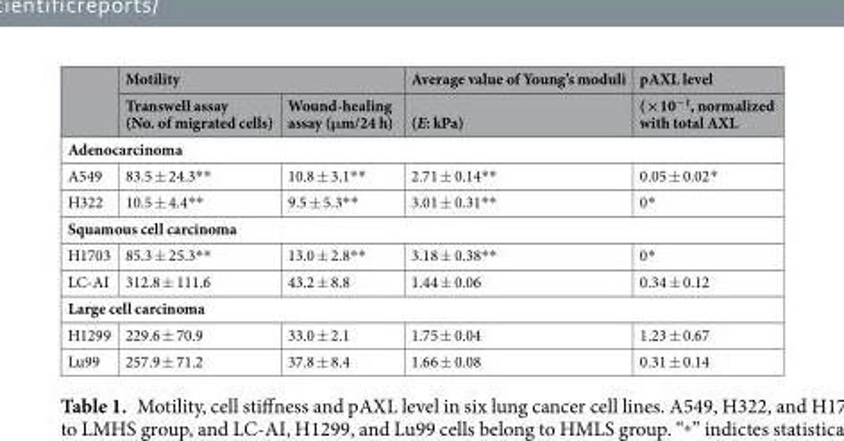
<table><thead><tr><td rowspan="2"></td><td colspan="2">Motility</td><td rowspan="2">Average value of Young’s moduli (E: kPa)</td><td rowspan="2">pAXL level (×10<sup>−1</sup>, normalized with total AXL</td></tr><tr><td>Transwell assay (No. of migrated cells)</td><td>Wound-healing assay (μm/24 h)</td></tr></thead><tbody><tr><td colspan="5">Adenocarcinoma</td></tr><tr><td>A549</td><td>83.5 ± 24.3**</td><td>10.8 ± 3.1**</td><td>2.71 ± 0.14**</td><td>0.05 ± 0.02*</td></tr><tr><td>H322</td><td>10.5 ± 4.4**</td><td>9.5 ± 5.3**</td><td>3.01 ± 0.31**</td><td>0*</td></tr><tr><td colspan="5">Squamous cell carcinoma</td></tr><tr><td>H1703</td><td>85.3 ± 25.3**</td><td>13.0 ± 2.8**</td><td>3.18 ± 0.38**</td><td>0*</td></tr><tr><td>LC-AI</td><td>312.8 ± 111.6</td><td>43.2 ± 8.8</td><td>1.44 ± 0.06</td><td>0.34 ± 0.12</td></tr><tr><td colspan="5">Large cell carcinoma</td></tr><tr><td>H1299</td><td>229.6 ± 70.9</td><td>33.0 ± 2.1</td><td>1.75 ± 0.04</td><td>1.23 ± 0.67</td></tr><tr><td>Lu99</td><td>257.9 ± 71.2</td><td>37.8 ± 8.4</td><td>1.66 ± 0.08</td><td>0.31 ± 0.14</td></tr></tbody></table>